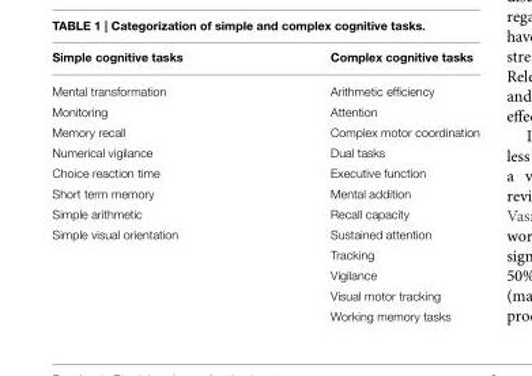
<table><thead><tr><td>Simple cognitive tasks</td><td>Complex cognitive tasks</td></tr></thead><tbody><tr><td>Mental transformation</td><td>Arithmetic efficiency</td></tr><tr><td>Monitoring</td><td>Attention</td></tr><tr><td>Memory recall</td><td>Complex motor coordination</td></tr><tr><td>Numerical vigilance</td><td>Dual tasks</td></tr><tr><td>Choice reaction time</td><td>Executive function</td></tr><tr><td>Short term memory</td><td>Mental addition</td></tr><tr><td>Simple arithmetic</td><td>Recall capacity</td></tr><tr><td rowspan="5">Simple visual orientation</td><td>Sustained attention</td></tr><tr><td>Tracking</td></tr><tr><td>Vigilance</td></tr><tr><td>Visual motor tracking</td></tr><tr><td>Working memory tasks</td></tr></tbody></table>